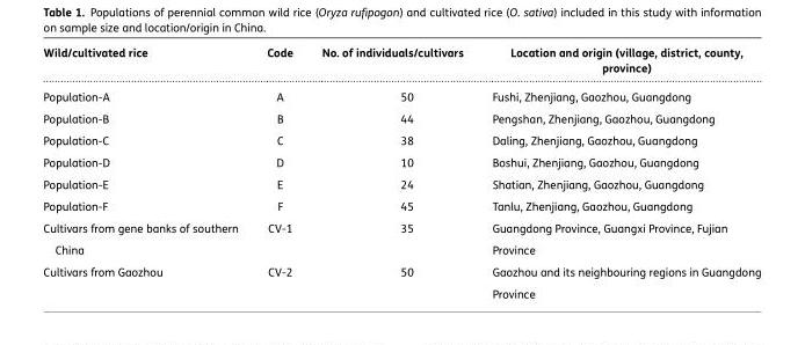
<table><thead><tr><td>Wild/cultivated rice</td><td>Code</td><td>No. of individuals/cultivars</td><td>Location and origin (village, district, county, province)</td></tr></thead><tbody><tr><td>Population-A</td><td>A</td><td>50</td><td>Fushi, Zhenjiang, Gaozhou, Guangdong</td></tr><tr><td>Population-B</td><td>B</td><td>44</td><td>Pengshan, Zhenjiang, Gaozhou, Guangdong</td></tr><tr><td>Population-C</td><td>C</td><td>38</td><td>Daling, Zhenjiang, Gaozhou, Guangdong</td></tr><tr><td>Population-D</td><td>D</td><td>10</td><td>Boshui, Zhenjiang, Gaozhou, Guangdong</td></tr><tr><td>Population-E</td><td>E</td><td>24</td><td>Shatian, Zhenjiang, Gaozhou, Guangdong</td></tr><tr><td>Population-F</td><td>F</td><td>45</td><td>Tanlu, Zhenjiang, Gaozhou, Guangdong</td></tr><tr><td>Cultivars from gene banks of southern China</td><td>CV-1</td><td>35</td><td>Guangdong Province, Guangxi Province, Fujian Province</td></tr><tr><td>Cultivars from Gaozhou</td><td>CV-2</td><td>50</td><td>Gaozhou and its neighbouring regions in Guangdong Province</td></tr></tbody></table>